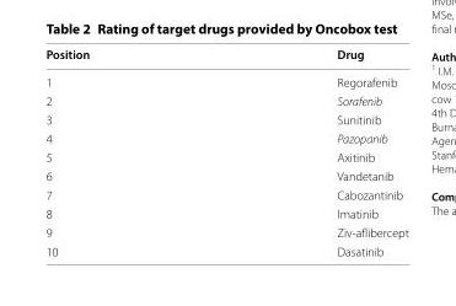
<table><thead><tr><td>Position</td><td>Drug</td></tr></thead><tbody><tr><td>1</td><td>Regorafenib</td></tr><tr><td>2</td><td>Sorafenib</td></tr><tr><td>3</td><td>Sunitinib</td></tr><tr><td>4</td><td>Pazopanib</td></tr><tr><td>5</td><td>Axitinib</td></tr><tr><td>6</td><td>Vandetanib</td></tr><tr><td>7</td><td>Cabozantinib</td></tr><tr><td>8</td><td>Imatinib</td></tr><tr><td>9</td><td>Ziv-aflibercept</td></tr><tr><td>10</td><td>Dasatinib</td></tr></tbody></table>